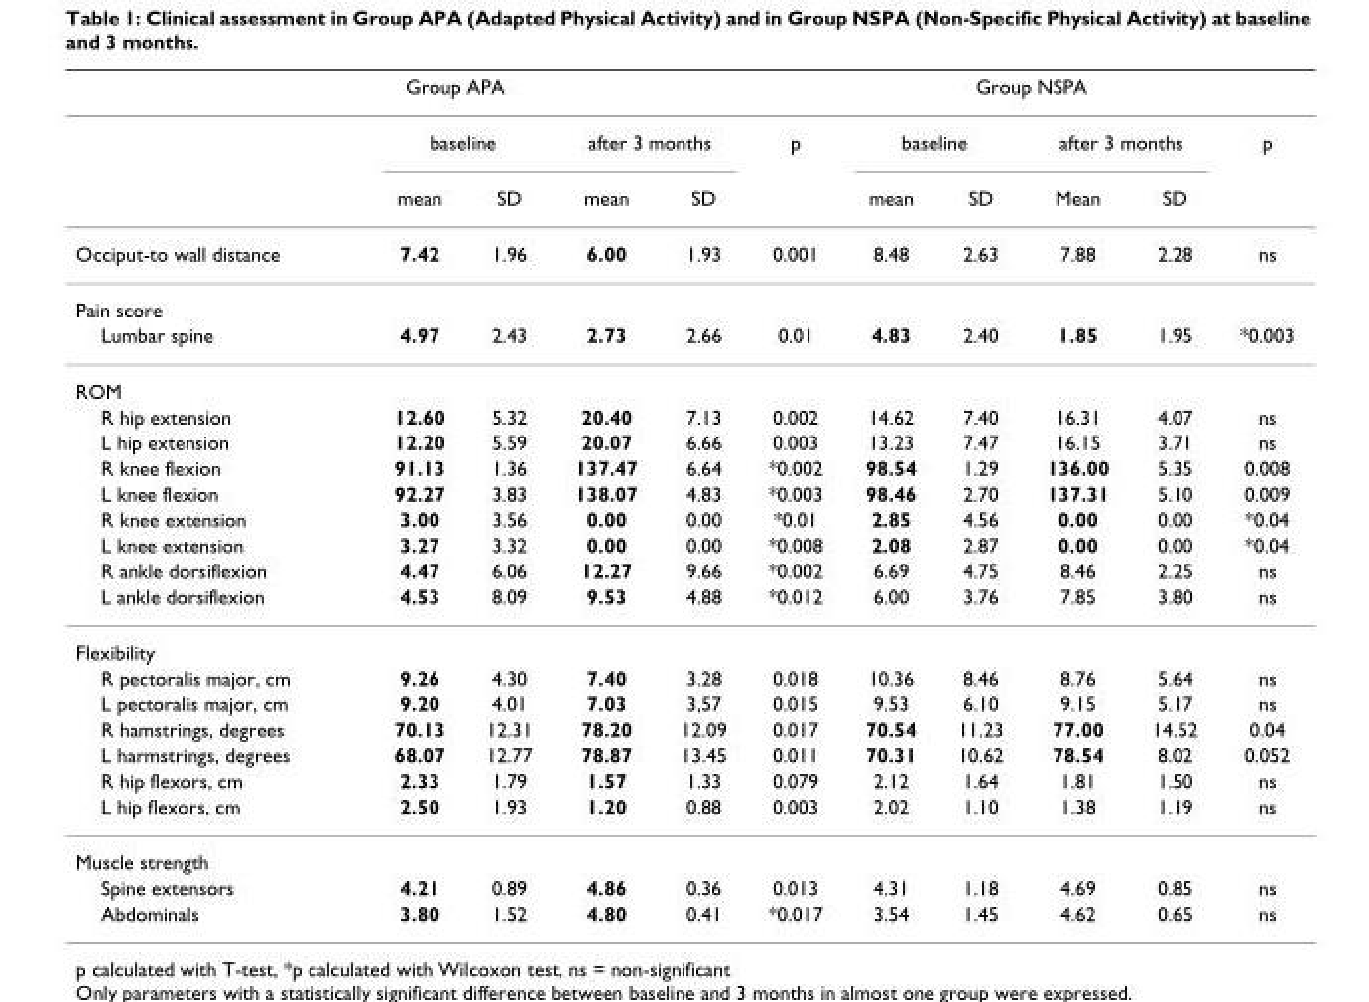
<table><thead><tr><td colspan="6">Group APA</td><td colspan="4">Group NSPA</td><td rowspan="3">p</td></tr><tr><td rowspan="2"></td><td colspan="2">baseline</td><td colspan="2">after 3 months</td><td rowspan="2">p</td><td colspan="2">baseline</td><td colspan="2">after 3 months</td></tr><tr><td>mean</td><td>SD</td><td>mean</td><td>SD</td><td>mean</td><td>SD</td><td>Mean</td><td>SD</td></tr></thead><tbody><tr><td>Occiput-to wall distance</td><td>7.42</td><td>1.96</td><td>6.00</td><td>1.93</td><td>0.001</td><td>8.48</td><td>2.63</td><td>7.88</td><td>2.28</td><td>ns</td></tr><tr><td colspan="11">Pain score</td></tr><tr><td>Lumbar spine</td><td>4.97</td><td>2.43</td><td>2.73</td><td>2.66</td><td>0.01</td><td>4.83</td><td>2.40</td><td>1.85</td><td>1.95</td><td>*0.003</td></tr><tr><td colspan="11">ROM</td></tr><tr><td>R hip extension</td><td>12.60</td><td>5.32</td><td>20.40</td><td>7.13</td><td>0.002</td><td>14.62</td><td>7.40</td><td>16.31</td><td>4.07</td><td>ns</td></tr><tr><td>L hip extension</td><td>12.20</td><td>5.59</td><td>20.07</td><td>6.66</td><td>0.003</td><td>13.23</td><td>7.47</td><td>16.15</td><td>3.71</td><td>ns</td></tr><tr><td>R knee flexion</td><td>91.13</td><td>1.36</td><td>137.47</td><td>6.64</td><td>*0.002</td><td>98.54</td><td>1.29</td><td>136.00</td><td>5.35</td><td>0.008</td></tr><tr><td>L knee flexion</td><td>92.27</td><td>3.83</td><td>138.07</td><td>4.83</td><td>*0.003</td><td>98.46</td><td>2.70</td><td>137.31</td><td>5.10</td><td>0.009</td></tr><tr><td>R knee extension</td><td>3.00</td><td>3.56</td><td>0.00</td><td>0.00</td><td>*0.01</td><td>2.85</td><td>4.56</td><td>0.00</td><td>0.00</td><td>*0.04</td></tr><tr><td>L knee extension</td><td>3.27</td><td>3.32</td><td>0.00</td><td>0.00</td><td>*0.008</td><td>2.08</td><td>2.87</td><td>0.00</td><td>0.00</td><td>*0.04</td></tr><tr><td>R ankle dorsiflexion</td><td>4.47</td><td>6.06</td><td>12.27</td><td>9.66</td><td>*0.002</td><td>6.69</td><td>4.75</td><td>8.46</td><td>2.25</td><td>ns</td></tr><tr><td>L ankle dorsiflexion</td><td>4.53</td><td>8.09</td><td>9.53</td><td>4.88</td><td>*0.012</td><td>6.00</td><td>3.76</td><td>7.85</td><td>3.80</td><td>ns</td></tr><tr><td colspan="11">Flexibility</td></tr><tr><td>R pectoralis major, cm</td><td>9.26</td><td>4.30</td><td>7.40</td><td>3.28</td><td>0.018</td><td>10.36</td><td>8.46</td><td>8.76</td><td>5.64</td><td>ns</td></tr><tr><td>L pectoralis major, cm</td><td>9.20</td><td>4.01</td><td>7.03</td><td>3,57</td><td>0.015</td><td>9.53</td><td>6.10</td><td>9.15</td><td>5.17</td><td>ns</td></tr><tr><td>R hamstrings, degrees</td><td>70.13</td><td>12.31</td><td>78.20</td><td>12.09</td><td>0.017</td><td>70.54</td><td>11.23</td><td>77.00</td><td>14.52</td><td>0.04</td></tr><tr><td>L harmstrings, degrees</td><td>68.07</td><td>12.77</td><td>78.87</td><td>13.45</td><td>0.011</td><td>70.31</td><td>10.62</td><td>78.54</td><td>8.02</td><td>0.052</td></tr><tr><td>R hip flexors, cm</td><td>2.33</td><td>1.79</td><td>1.57</td><td>1.33</td><td>0.079</td><td>2.12</td><td>1.64</td><td>1.81</td><td>1.50</td><td>ns</td></tr><tr><td>L hip flexors, cm</td><td>2.50</td><td>1.93</td><td>1.20</td><td>0.88</td><td>0.003</td><td>2.02</td><td>1.10</td><td>1.38</td><td>1.19</td><td>ns</td></tr><tr><td colspan="11">Muscle strength</td></tr><tr><td>Spine extensors</td><td>4.21</td><td>0.89</td><td>4.86</td><td>0.36</td><td>0.013</td><td>4.31</td><td>1.18</td><td>4.69</td><td>0.85</td><td>ns</td></tr><tr><td>Abdominals</td><td>3.80</td><td>1.52</td><td>4.80</td><td>0.41</td><td>*0.017</td><td>3.54</td><td>1.45</td><td>4.62</td><td>0.65</td><td>ns</td></tr></tbody></table>